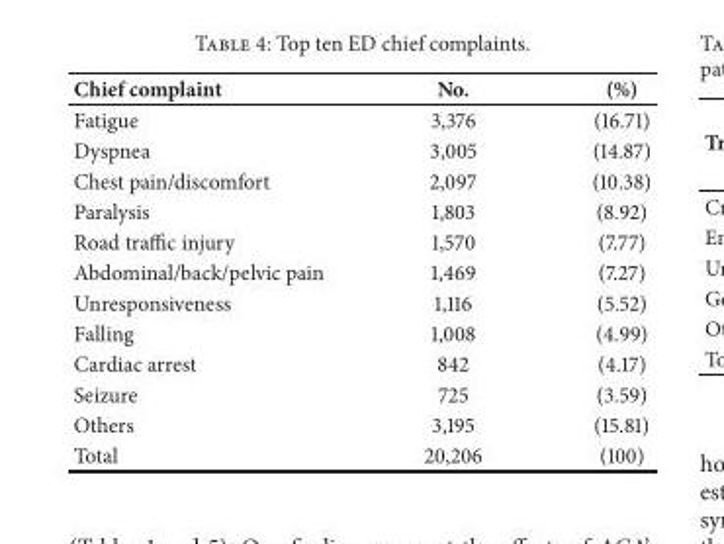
<table><thead><tr><td>Chief complaint</td><td>No.</td><td>(%)</td></tr></thead><tbody><tr><td>Fatigue</td><td>3,376</td><td>(16.71)</td></tr><tr><td>Dyspnea</td><td>3,005</td><td>(14.87)</td></tr><tr><td>Chest pain/discomfort</td><td>2,097</td><td>(10.38)</td></tr><tr><td>Paralysis</td><td>1,803</td><td>(8.92)</td></tr><tr><td>Road traffic injury</td><td>1,570</td><td>(7.77)</td></tr><tr><td>Abdominal/back/pelvic pain</td><td>1,469</td><td>(7.27)</td></tr><tr><td>Unresponsiveness</td><td>1,116</td><td>(5.52)</td></tr><tr><td>Falling</td><td>1,008</td><td>(4.99)</td></tr><tr><td>Cardiac arrest</td><td>842</td><td>(4.17)</td></tr><tr><td>Seizure</td><td>725</td><td>(3.59)</td></tr><tr><td>Others</td><td>3,195</td><td>(15.81)</td></tr><tr><td>Total</td><td>20,206</td><td>(100)</td></tr></tbody></table>